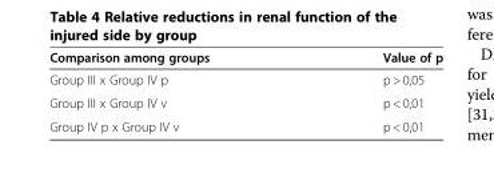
<table><thead><tr><td>Comparison among groups</td><td>Value of p</td></tr></thead><tbody><tr><td>Group III x Group IV p</td><td>p &gt; 0,05</td></tr><tr><td>Group III x Group IV v</td><td>p &lt; 0,01</td></tr><tr><td>Group IV p x Group IV v</td><td>p &lt; 0,01</td></tr></tbody></table>